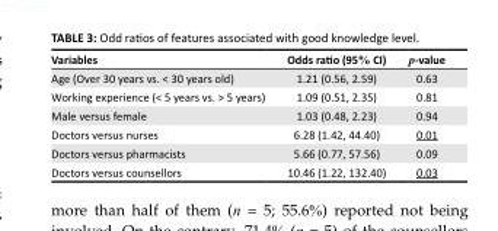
<table><thead><tr><td>Variables</td><td>Odds ratio (95% CI)</td><td>p-value</td></tr></thead><tbody><tr><td>Age (Over 30 years vs. &lt; 30 years old)</td><td>1.21 (0.56, 2.59)</td><td>0.63</td></tr><tr><td>Working experience (&lt; 5 years vs. &gt; 5 years)</td><td>1.09 (0.51, 2.35)</td><td>0.81</td></tr><tr><td>Male versus female</td><td>1.03 (0.48, 2.23)</td><td>0.94</td></tr><tr><td>Doctors versus nurses</td><td>6.28 (1.42, 44.40)</td><td>0.01</td></tr><tr><td>Doctors versus pharmacists</td><td>5.66 (0.77, 57.56)</td><td>0.09</td></tr><tr><td>Doctors versus counsellors</td><td>10.46 (1.22, 132.40)</td><td>0.03</td></tr></tbody></table>